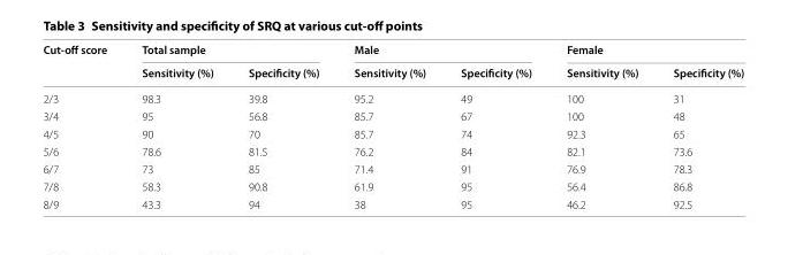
<table><thead><tr><td rowspan="2">Cut‑off score</td><td colspan="2">Total sample</td><td colspan="2">Male</td><td colspan="2">Female</td></tr><tr><td>Sensitivity (%)</td><td>Specificity (%)</td><td>Sensitivity (%)</td><td>Specificity (%)</td><td>Sensitivity (%)</td><td>Specificity (%)</td></tr></thead><tbody><tr><td>2/3</td><td>98.3</td><td>39.8</td><td>95.2</td><td>49</td><td>100</td><td>31</td></tr><tr><td>3/4</td><td>95</td><td>56.8</td><td>85.7</td><td>67</td><td>100</td><td>48</td></tr><tr><td>4/5</td><td>90</td><td>70</td><td>85.7</td><td>74</td><td>92.3</td><td>65</td></tr><tr><td>5/6</td><td>78.6</td><td>81.5</td><td>76.2</td><td>84</td><td>82.1</td><td>73.6</td></tr><tr><td>6/7</td><td>73</td><td>85</td><td>71.4</td><td>91</td><td>76.9</td><td>78.3</td></tr><tr><td>7/8</td><td>58.3</td><td>90.8</td><td>61.9</td><td>95</td><td>56.4</td><td>86.8</td></tr><tr><td>8/9</td><td>43.3</td><td>94</td><td>38</td><td>95</td><td>46.2</td><td>92.5</td></tr></tbody></table>